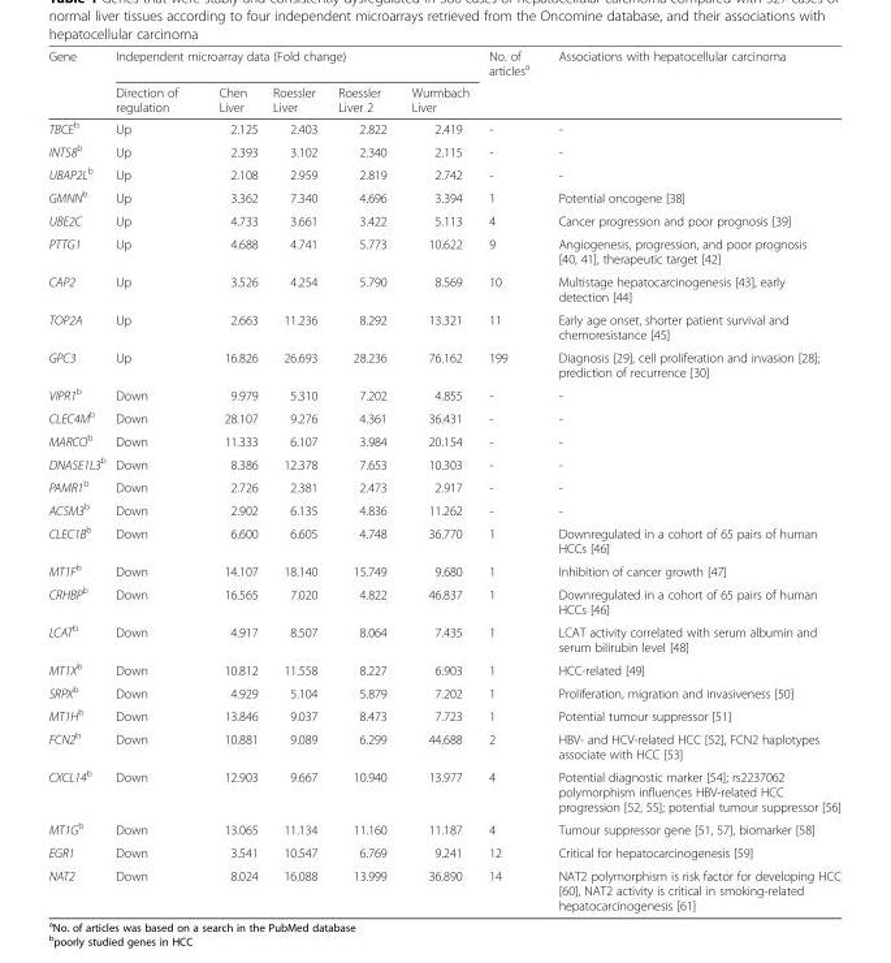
<table><thead><tr><td rowspan="2">Gene</td><td colspan="5">Independent microarray data (Fold change)</td><td rowspan="2">No. of articles<sup>a</sup></td><td rowspan="2">Associations with hepatocellular carcinoma</td></tr><tr><td>Direction of regulation</td><td>Chen Liver</td><td>Roessler Liver</td><td>Roessler Liver 2</td><td>Wurmbach Liver</td></tr></thead><tbody><tr><td>TBCE<sup>b</sup></td><td>Up</td><td>2.125</td><td>2.403</td><td>2.822</td><td>2.419</td><td>-</td><td>-</td></tr><tr><td>INTS8<sup>b</sup></td><td>Up</td><td>2.393</td><td>3.102</td><td>2.340</td><td>2.115</td><td>-</td><td>-</td></tr><tr><td>UBAP2L<sup>b</sup></td><td>Up</td><td>2.108</td><td>2.959</td><td>2.819</td><td>2.742</td><td>-</td><td>-</td></tr><tr><td>GMNN<sup>b</sup></td><td>Up</td><td>3.362</td><td>7.340</td><td>4.696</td><td>3.394</td><td>1</td><td>Potential oncogene [38]</td></tr><tr><td>UBE2C</td><td>Up</td><td>4.733</td><td>3.661</td><td>3.422</td><td>5.113</td><td>4</td><td>Cancer progression and poor prognosis [39]</td></tr><tr><td>PTTG1</td><td>Up</td><td>4.688</td><td>4.741</td><td>5.773</td><td>10.622</td><td>9</td><td>Angiogenesis, progression, and poor prognosis [40, 41], therapeutic target [42]</td></tr><tr><td>CAP2</td><td>Up</td><td>3.526</td><td>4.254</td><td>5.790</td><td>8.569</td><td>10</td><td>Multistage hepatocarcinogenesis [43], early detection [44]</td></tr><tr><td>TOP2A</td><td>Up</td><td>2.663</td><td>11.236</td><td>8.292</td><td>13.321</td><td>11</td><td>Early age onset, shorter patient survival and chemoresistance [45]</td></tr><tr><td>GPC3</td><td>Up</td><td>16.826</td><td>26.693</td><td>28.236</td><td>76.162</td><td>199</td><td>Diagnosis [29], cell proliferation and invasion [28]; prediction of recurrence [30]</td></tr><tr><td>VIPR1<sup>b</sup></td><td>Down</td><td>9.979</td><td>5.310</td><td>7.202</td><td>4.855</td><td>-</td><td>-</td></tr><tr><td>CLEC4M<sup>b</sup></td><td>Down</td><td>28.107</td><td>9.276</td><td>4.361</td><td>36.431</td><td>-</td><td>-</td></tr><tr><td>MARCO<sup>b</sup></td><td>Down</td><td>11.333</td><td>6.107</td><td>3.984</td><td>20.154</td><td>-</td><td>-</td></tr><tr><td>DNASE1L3<sup>b</sup></td><td>Down</td><td>8.386</td><td>12.378</td><td>7.653</td><td>10.303</td><td>-</td><td>-</td></tr><tr><td>PAMR1<sup>b</sup></td><td>Down</td><td>2.726</td><td>2.381</td><td>2.473</td><td>2.917</td><td>-</td><td>-</td></tr><tr><td>ACSM3<sup>b</sup></td><td>Down</td><td>2.902</td><td>6.135</td><td>4.836</td><td>11.262</td><td>-</td><td>-</td></tr><tr><td>CLEC1B<sup>b</sup></td><td>Down</td><td>6.600</td><td>6.605</td><td>4.748</td><td>36.770</td><td>1</td><td>Downregulated in a cohort of 65 pairs of human HCCs [46]</td></tr><tr><td>MT1F<sup>b</sup></td><td>Down</td><td>14.107</td><td>18.140</td><td>15.749</td><td>9.680</td><td>1</td><td>Inhibition of cancer growth [47]</td></tr><tr><td>CRHBP<sup>b</sup></td><td>Down</td><td>16.565</td><td>7.020</td><td>4.822</td><td>46.837</td><td>1</td><td>Downregulated in a cohort of 65 pairs of human HCCs [46]</td></tr><tr><td>LCAT<sup>b</sup></td><td>Down</td><td>4.917</td><td>8.507</td><td>8.064</td><td>7.435</td><td>1</td><td>LCAT activity correlated with serum albumin and serum bilirubin level [48]</td></tr><tr><td>MT1X<sup>b</sup></td><td>Down</td><td>10.812</td><td>11.558</td><td>8.227</td><td>6.903</td><td>1</td><td>HCC-related [49]</td></tr><tr><td>SRPX<sup>b</sup></td><td>Down</td><td>4.929</td><td>5.104</td><td>5.879</td><td>7.202</td><td>1</td><td>Proliferation, migration and invasiveness [50]</td></tr><tr><td>MT1H<sup>b</sup></td><td>Down</td><td>13.846</td><td>9.037</td><td>8.473</td><td>7.723</td><td>1</td><td>Potential tumour suppressor [51]</td></tr><tr><td>FCN2<sup>b</sup></td><td>Down</td><td>10.881</td><td>9.089</td><td>6.299</td><td>44.688</td><td>2</td><td>HBV- and HCV-related HCC [52], FCN2 haplotypes associate with HCC [53]</td></tr><tr><td>CXCL14<sup>b</sup></td><td>Down</td><td>12.903</td><td>9.667</td><td>10.940</td><td>13.977</td><td>4</td><td>Potential diagnostic marker [54]; rs2237062 polymorphism influences HBV-related HCC progression [52, 55]; potential tumour suppressor [56]</td></tr><tr><td>MT1G<sup>b</sup></td><td>Down</td><td>13.065</td><td>11.134</td><td>11.160</td><td>11.187</td><td>4</td><td>Tumour suppressor gene [51, 57], biomarker [58]</td></tr><tr><td>EGR1</td><td>Down</td><td>3.541</td><td>10.547</td><td>6.769</td><td>9.241</td><td>12</td><td>Critical for hepatocarcinogenesis [59]</td></tr><tr><td>NAT2</td><td>Down</td><td>8.024</td><td>16.088</td><td>13.999</td><td>36.890</td><td>14</td><td>NAT2 polymorphism is risk factor for developing HCC [60], NAT2 activity is critical in smoking-related hepatocarcinogenesis [61]</td></tr></tbody></table>